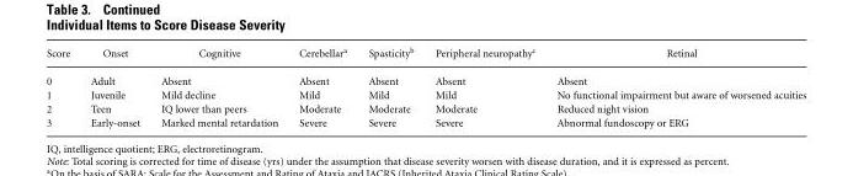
<table><thead><tr><td>Score</td><td>Onset</td><td>Cognitive</td><td>Cerebellar<sup>a</sup></td><td>Spasticity<sup>b</sup></td><td>Peripheral neuropathy<sup>c</sup></td><td>Retinal</td></tr></thead><tbody><tr><td>0</td><td>Adult</td><td>Absent</td><td>Absent</td><td>Absent</td><td>Absent</td><td>Absent</td></tr><tr><td>1</td><td>Juvenile</td><td>Mild decline</td><td>Mild</td><td>Mild</td><td>Mild</td><td>No functional impairment but aware of worsened acuities</td></tr><tr><td>2</td><td>Teen</td><td>IQ lower than peers</td><td>Moderate</td><td>Moderate</td><td>Moderate</td><td>Reduced night vision</td></tr><tr><td>3</td><td>Early-onset</td><td>Marked mental retardation</td><td>Severe</td><td>Severe</td><td>Severe</td><td>Abnormal fundoscopy or ERG</td></tr></tbody></table>